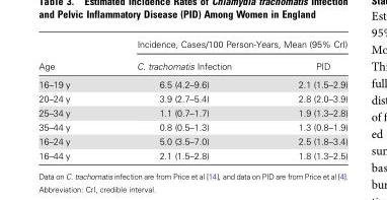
<table><thead><tr><td rowspan="2">Age</td><td colspan="2">Incidence, Cases/100 Person-Years, Mean (95% CrI)</td></tr><tr><td>C. trachomatis Infection</td><td>PID</td></tr></thead><tbody><tr><td>16–19 y</td><td>6.5 (4.2–9.6)</td><td>2.1 (1.5–2.9)</td></tr><tr><td>20–24 y</td><td>3.9 (2.7–5.4)</td><td>2.8 (2.0–3.9)</td></tr><tr><td>25–34 y</td><td>1.1 (0.7–1.7)</td><td>1.9 (1.3–2.8)</td></tr><tr><td>35–44 y</td><td>0.8 (0.5–1.3)</td><td>1.3 (0.8–1.9)</td></tr><tr><td>16–24 y</td><td>5.0 (3.5–7.0)</td><td>2.5 (1.8–3.4)</td></tr><tr><td>16–44 y</td><td>2.1 (1.5–2.8)</td><td>1.8 (1.3–2.5)</td></tr></tbody></table>